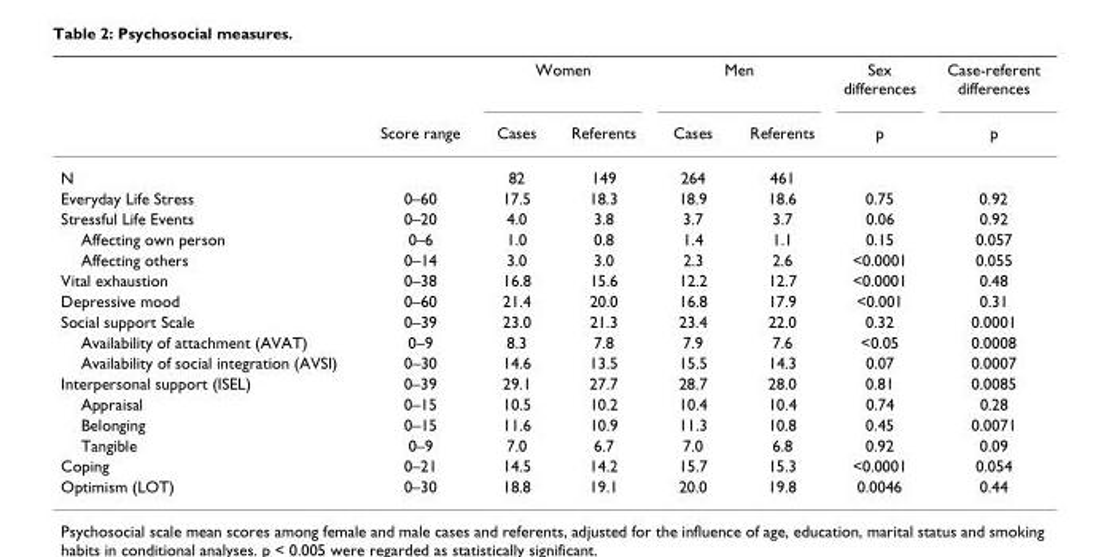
<table><thead><tr><td rowspan="2"></td><td rowspan="2">Score range</td><td colspan="2">Women</td><td colspan="2">Men</td><td rowspan="2">Sex differences p</td><td rowspan="2">Case-referent differences p</td></tr><tr><td>Cases</td><td>Referents</td><td>Cases</td><td>Referents</td></tr></thead><tbody><tr><td>N</td><td></td><td>82</td><td>149</td><td>264</td><td>461</td><td></td><td></td></tr><tr><td>Everyday Life Stress</td><td>0–60</td><td>17.5</td><td>18.3</td><td>18.9</td><td>18.6</td><td>0.75</td><td>0.92</td></tr><tr><td>Stressful Life Events</td><td>0–20</td><td>4.0</td><td>3.8</td><td>3.7</td><td>3.7</td><td>0.06</td><td>0.92</td></tr><tr><td>Affecting own person</td><td>0–6</td><td>1.0</td><td>0.8</td><td>1.4</td><td>1.1</td><td>0.15</td><td>0.057</td></tr><tr><td>Affecting others</td><td>0–14</td><td>3.0</td><td>3.0</td><td>2.3</td><td>2.6</td><td>&lt;0.0001</td><td>0.055</td></tr><tr><td>Vital exhaustion</td><td>0–38</td><td>16.8</td><td>15.6</td><td>12.2</td><td>12.7</td><td>&lt;0.0001</td><td>0.48</td></tr><tr><td>Depressive mood</td><td>0–60</td><td>21.4</td><td>20.0</td><td>16.8</td><td>17.9</td><td>&lt;0.001</td><td>0.31</td></tr><tr><td>Social support Scale</td><td>0–39</td><td>23.0</td><td>21.3</td><td>23.4</td><td>22.0</td><td>0.32</td><td>0.0001</td></tr><tr><td>Availability of attachment (AVAT)</td><td>0–9</td><td>8.3</td><td>7.8</td><td>7.9</td><td>7.6</td><td>&lt;0.05</td><td>0.0008</td></tr><tr><td>Availability of social integration (AVSI)</td><td>0–30</td><td>14.6</td><td>13.5</td><td>15.5</td><td>14.3</td><td>0.07</td><td>0.0007</td></tr><tr><td>Interpersonal support (ISEL)</td><td>0–39</td><td>29.1</td><td>27.7</td><td>28.7</td><td>28.0</td><td>0.81</td><td>0.0085</td></tr><tr><td>Appraisal</td><td>0–15</td><td>10.5</td><td>10.2</td><td>10.4</td><td>10.4</td><td>0.74</td><td>0.28</td></tr><tr><td>Belonging</td><td>0–15</td><td>11.6</td><td>10.9</td><td>11.3</td><td>10.8</td><td>0.45</td><td>0.0071</td></tr><tr><td>Tangible</td><td>0–9</td><td>7.0</td><td>6.7</td><td>7.0</td><td>6.8</td><td>0.92</td><td>0.09</td></tr><tr><td>Coping</td><td>0–21</td><td>14.5</td><td>14.2</td><td>15.7</td><td>15.3</td><td>&lt;0.0001</td><td>0.054</td></tr><tr><td>Optimism (LOT)</td><td>0–30</td><td>18.8</td><td>19.1</td><td>20.0</td><td>19.8</td><td>0.0046</td><td>0.44</td></tr></tbody></table>